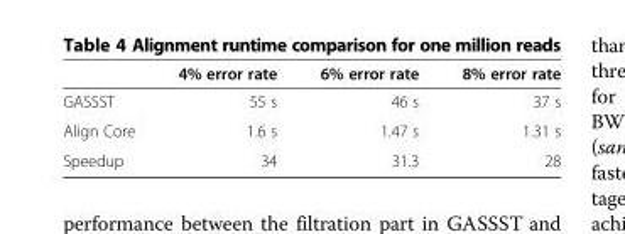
<table><thead><tr><td></td><td>4% error rate</td><td>6% error rate</td><td>8% error rate</td></tr></thead><tbody><tr><td>GASSST</td><td>55 s</td><td>46 s</td><td>37 s</td></tr><tr><td>Align Core</td><td>1.6 s</td><td>1.47 s</td><td>1.31 s</td></tr><tr><td>Speedup</td><td>34</td><td>31.3</td><td>28</td></tr></tbody></table>